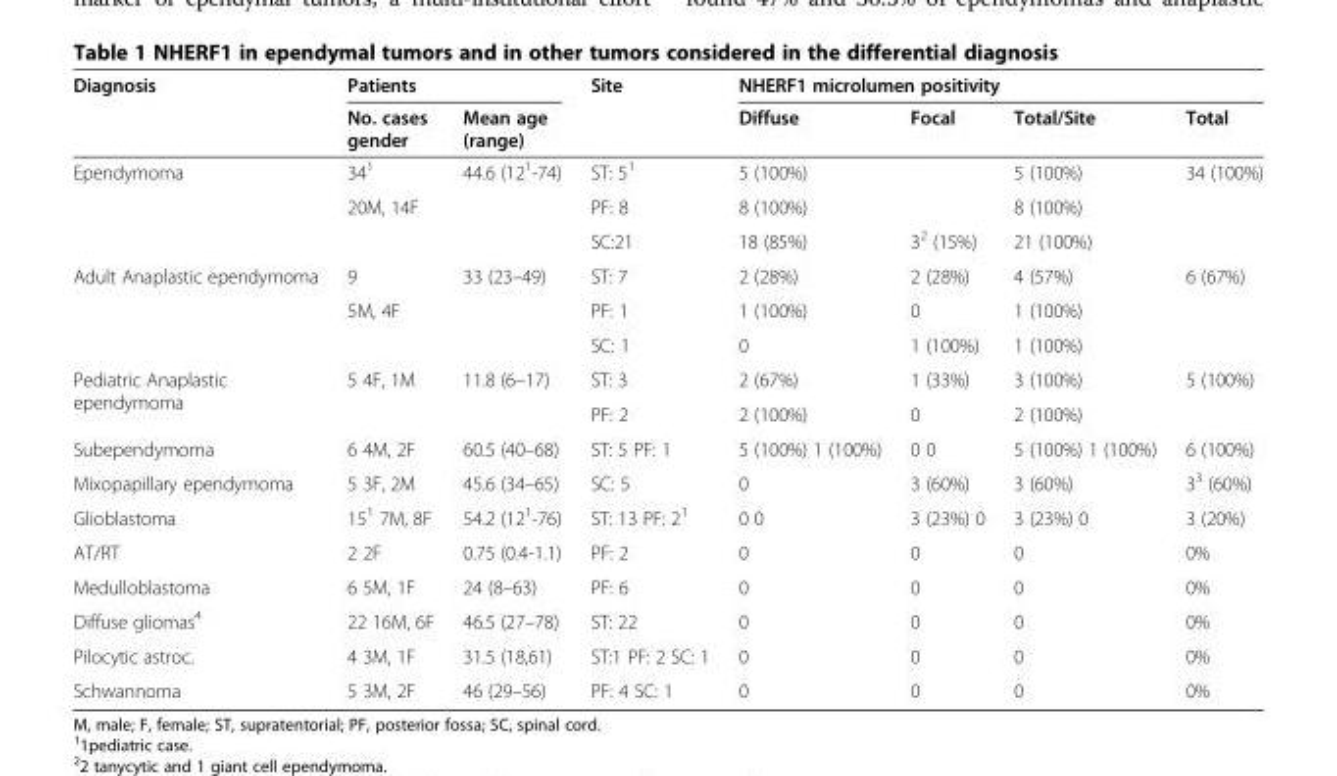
<table><thead><tr><td rowspan="2">Diagnosis</td><td colspan="2">Patients</td><td rowspan="2">Site</td><td colspan="4">NHERF1 microlumen positivity</td></tr><tr><td>No. cases gender</td><td>Mean age (range)</td><td>Diffuse</td><td>Focal</td><td>Total/Site</td><td>Total</td></tr></thead><tbody><tr><td rowspan="3">Ependymoma</td><td>34<sup>1</sup></td><td rowspan="2">44.6 (12<sup>1</sup>-74)</td><td>ST: 5<sup>1</sup></td><td>5 (100%)</td><td></td><td>5 (100%)</td><td rowspan="3">34 (100%)</td></tr><tr><td>20M, 14F</td><td>PF: 8</td><td>8 (100%)</td><td></td><td>8 (100%)</td></tr><tr><td></td><td></td><td>SC:21</td><td>18 (85%)</td><td>3<sup>2</sup> (15%)</td><td>21 (100%)</td></tr><tr><td rowspan="3">Adult Anaplastic ependymoma</td><td>9</td><td rowspan="2">33 (23–49)</td><td>ST: 7</td><td>2 (28%)</td><td>2 (28%)</td><td>4 (57%)</td><td rowspan="3">6 (67%)</td></tr><tr><td>5M, 4F</td><td>PF: 1</td><td>1 (100%)</td><td>0</td><td>1 (100%)</td></tr><tr><td></td><td></td><td>SC: 1</td><td>0</td><td>1 (100%)</td><td>1 (100%)</td></tr><tr><td rowspan="2">Pediatric Anaplastic ependymoma</td><td rowspan="2">5 4F, 1M</td><td rowspan="2">11.8 (6–17)</td><td>ST: 3</td><td>2 (67%)</td><td>1 (33%)</td><td>3 (100%)</td><td rowspan="2">5 (100%)</td></tr><tr><td>PF: 2</td><td>2 (100%)</td><td>0</td><td>2 (100%)</td></tr><tr><td>Subependymoma</td><td>6 4M, 2F</td><td>60.5 (40–68)</td><td>ST: 5 PF: 1</td><td>5 (100%) 1 (100%)</td><td>0 0</td><td>5 (100%) 1 (100%)</td><td>6 (100%)</td></tr><tr><td>Mixopapillary ependymoma</td><td>5 3F, 2M</td><td>45.6 (34–65)</td><td>SC: 5</td><td>0</td><td>3 (60%)</td><td>3 (60%)</td><td>3<sup>3</sup> (60%)</td></tr><tr><td>Glioblastoma</td><td>15<sup>1</sup> 7M, 8F</td><td>54.2 (12<sup>1</sup>-76)</td><td>ST: 13 PF: 2<sup>1</sup></td><td>0 0</td><td>3 (23%) 0</td><td>3 (23%) 0</td><td>3 (20%)</td></tr><tr><td>AT/RT</td><td>2 2F</td><td>0.75 (0.4-1.1)</td><td>PF: 2</td><td>0</td><td>0</td><td>0</td><td>0%</td></tr><tr><td>Medulloblastoma</td><td>6 5M, 1F</td><td>24 (8–63)</td><td>PF: 6</td><td>0</td><td>0</td><td>0</td><td>0%</td></tr><tr><td>Diffuse gliomas<sup>4</sup></td><td>22 16M, 6F</td><td>46.5 (27–78)</td><td>ST: 22</td><td>0</td><td>0</td><td>0</td><td>0%</td></tr><tr><td>Pilocytic astroc.</td><td>4 3M, 1F</td><td>31.5 (18,61)</td><td>ST:1 PF: 2 SC: 1</td><td>0</td><td>0</td><td>0</td><td>0%</td></tr><tr><td>Schwannoma</td><td>5 3M, 2F</td><td>46 (29–56)</td><td>PF: 4 SC: 1</td><td>0</td><td>0</td><td>0</td><td>0%</td></tr></tbody></table>